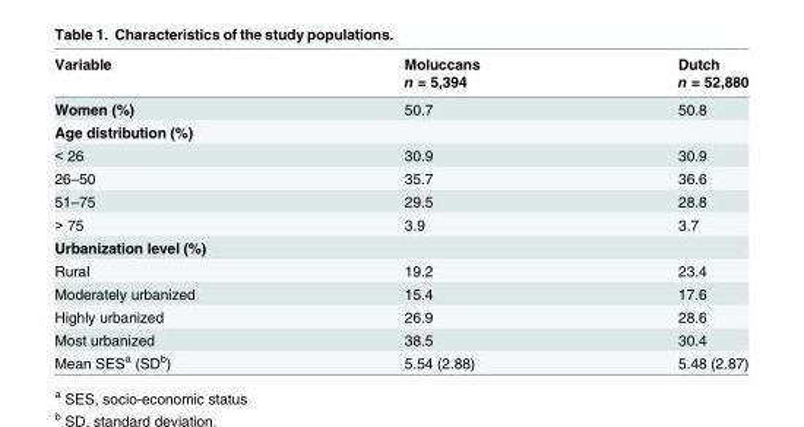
<table><thead><tr><td rowspan="2">Variable</td><td rowspan="2">Moluccans n = 5,394</td><td rowspan="2">Dutch n = 52,880</td></tr><tr></tr></thead><tbody><tr><td>Women (%)</td><td>50.7</td><td>50.8</td></tr><tr><td colspan="3">Age distribution (%)</td></tr><tr><td>&lt; 26</td><td>30.9</td><td>30.9</td></tr><tr><td>26–50</td><td>35.7</td><td>36.6</td></tr><tr><td>51–75</td><td>29.5</td><td>28.8</td></tr><tr><td>&gt; 75</td><td>3.9</td><td>3.7</td></tr><tr><td colspan="3">Urbanization level (%)</td></tr><tr><td>Rural</td><td>19.2</td><td>23.4</td></tr><tr><td>Moderately urbanized</td><td>15.4</td><td>17.6</td></tr><tr><td>Highly urbanized</td><td>26.9</td><td>28.6</td></tr><tr><td>Most urbanized</td><td>38.5</td><td>30.4</td></tr><tr><td>Mean SES<sup>a</sup> (SD<sup>b</sup>)</td><td>5.54 (2.88)</td><td>5.48 (2.87)</td></tr></tbody></table>